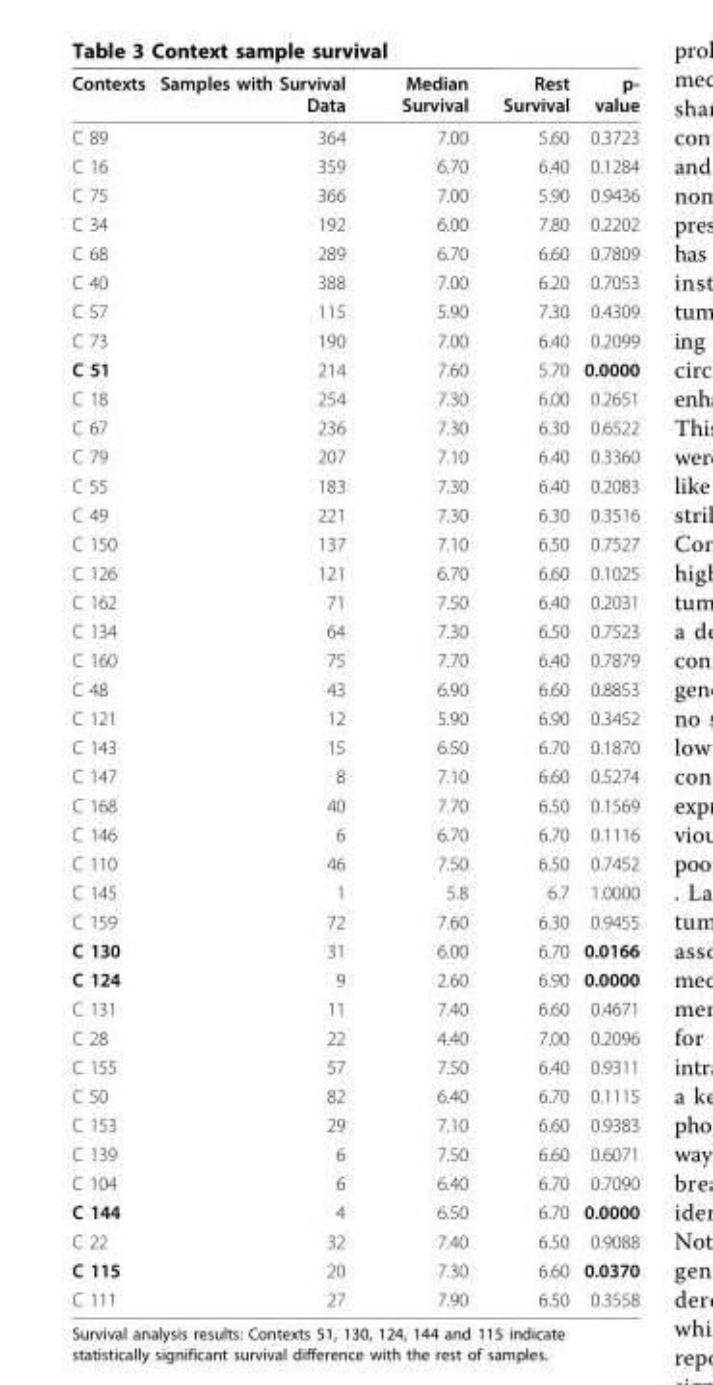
<table><thead><tr><td>Contexts</td><td>Samples with Survival Data</td><td>Median Survival</td><td>Rest Survival</td><td>p- value</td></tr></thead><tbody><tr><td>C 89</td><td>364</td><td>7.00</td><td>5.60</td><td>0.3723</td></tr><tr><td>C 16</td><td>359</td><td>6.70</td><td>6.40</td><td>0.1284</td></tr><tr><td>C 75</td><td>366</td><td>7.00</td><td>5.90</td><td>0.9436</td></tr><tr><td>C 34</td><td>192</td><td>6.00</td><td>7.80</td><td>0.2202</td></tr><tr><td>C 68</td><td>289</td><td>6.70</td><td>6.60</td><td>0.7809</td></tr><tr><td>C 40</td><td>388</td><td>7.00</td><td>6.20</td><td>0.7053</td></tr><tr><td>C 57</td><td>115</td><td>5.90</td><td>7.30</td><td>0.4309</td></tr><tr><td>C 73</td><td>190</td><td>7.00</td><td>6.40</td><td>0.2099</td></tr><tr><td>C 51</td><td>214</td><td>7.60</td><td>5.70</td><td>0.0000</td></tr><tr><td>C 18</td><td>254</td><td>7.30</td><td>6.00</td><td>0.2651</td></tr><tr><td>C 67</td><td>236</td><td>7.30</td><td>6.30</td><td>0.6522</td></tr><tr><td>C 79</td><td>207</td><td>7.10</td><td>6.40</td><td>0.3360</td></tr><tr><td>C 55</td><td>183</td><td>7.30</td><td>6.40</td><td>0.2083</td></tr><tr><td>C 49</td><td>221</td><td>7.30</td><td>6.30</td><td>0.3516</td></tr><tr><td>C 150</td><td>137</td><td>7.10</td><td>6.50</td><td>0.7527</td></tr><tr><td>C 126</td><td>121</td><td>6.70</td><td>6.60</td><td>0.1025</td></tr><tr><td>C 162</td><td>71</td><td>7.50</td><td>6.40</td><td>0.2031</td></tr><tr><td>C 134</td><td>64</td><td>7.30</td><td>6.50</td><td>0.7523</td></tr><tr><td>C 160</td><td>75</td><td>7.70</td><td>6.40</td><td>0.7879</td></tr><tr><td>C 48</td><td>43</td><td>6.90</td><td>6.60</td><td>0.8853</td></tr><tr><td>C 121</td><td>12</td><td>5.90</td><td>6.90</td><td>0.3452</td></tr><tr><td>C 143</td><td>15</td><td>6.50</td><td>6.70</td><td>0.1870</td></tr><tr><td>C 147</td><td>8</td><td>7.10</td><td>6.60</td><td>0.5274</td></tr><tr><td>C 168</td><td>40</td><td>7.70</td><td>6.50</td><td>0.1569</td></tr><tr><td>C 146</td><td>6</td><td>6.70</td><td>6.70</td><td>0.1116</td></tr><tr><td>C 110</td><td>46</td><td>7.50</td><td>6.50</td><td>0.7452</td></tr><tr><td>C 145</td><td>1</td><td>5.8</td><td>6.7</td><td>1.0000</td></tr><tr><td>C 159</td><td>72</td><td>7.60</td><td>6.30</td><td>0.9455</td></tr><tr><td>C 130</td><td>31</td><td>6.00</td><td>6.70</td><td>0.0166</td></tr><tr><td>C 124</td><td>9</td><td>2.60</td><td>6.90</td><td>0.0000</td></tr><tr><td>C 131</td><td>11</td><td>7.40</td><td>6.60</td><td>0.4671</td></tr><tr><td>C 28</td><td>22</td><td>4.40</td><td>7.00</td><td>0.2096</td></tr><tr><td>C 155</td><td>57</td><td>7.50</td><td>6.40</td><td>0.9311</td></tr><tr><td>C 50</td><td>82</td><td>6.40</td><td>6.70</td><td>0.1115</td></tr><tr><td>C 153</td><td>29</td><td>7.10</td><td>6.60</td><td>0.9383</td></tr><tr><td>C 139</td><td>6</td><td>7.50</td><td>6.60</td><td>0.6071</td></tr><tr><td>C 104</td><td>6</td><td>6.40</td><td>6.70</td><td>0.7090</td></tr><tr><td>C 144</td><td>4</td><td>6.50</td><td>6.70</td><td>0.0000</td></tr><tr><td>C 22</td><td>32</td><td>7.40</td><td>6.50</td><td>0.9088</td></tr><tr><td>C 115</td><td>20</td><td>7.30</td><td>6.60</td><td>0.0370</td></tr><tr><td>C 111</td><td>27</td><td>7.90</td><td>6.50</td><td>0.3558</td></tr></tbody></table>